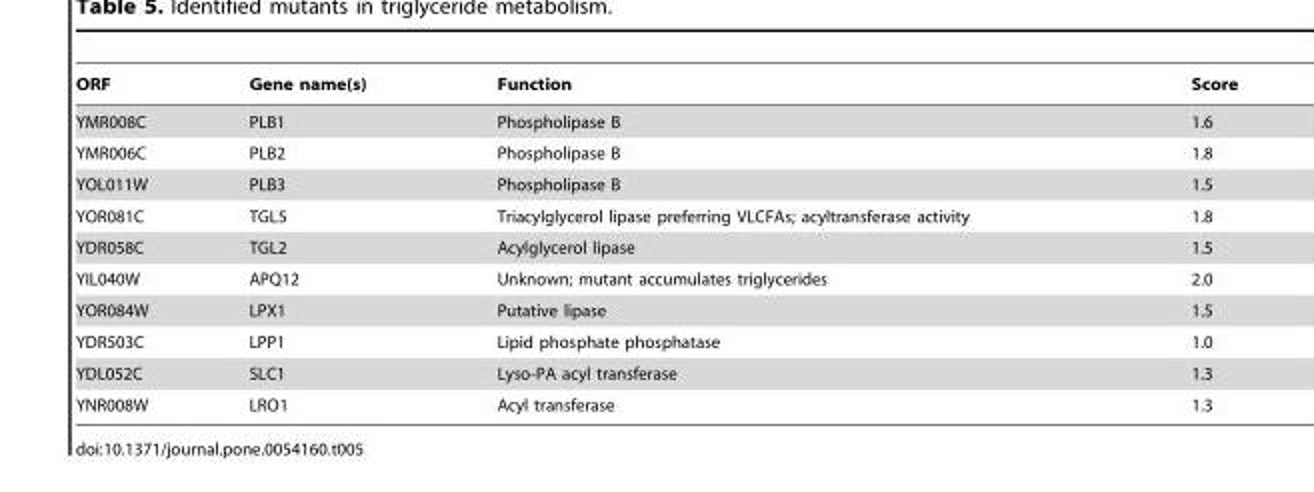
<table><thead><tr><td>ORF</td><td>Gene name(s)</td><td>Function</td><td>Score</td></tr></thead><tbody><tr><td>YMR008C</td><td>PLB1</td><td>Phospholipase B</td><td>1.6</td></tr><tr><td>YMR006C</td><td>PLB2</td><td>Phospholipase B</td><td>1.8</td></tr><tr><td>YOL011W</td><td>PLB3</td><td>Phospholipase B</td><td>1.5</td></tr><tr><td>YOR081C</td><td>TGL5</td><td>Triacylglycerol lipase preferring VLCFAs; acyltransferase activity</td><td>1.8</td></tr><tr><td>YDR058C</td><td>TGL2</td><td>Acylglycerol lipase</td><td>1.5</td></tr><tr><td>YIL040W</td><td>APQ12</td><td>Unknown; mutant accumulates triglycerides</td><td>2.0</td></tr><tr><td>YOR084W</td><td>LPX1</td><td>Putative lipase</td><td>1.5</td></tr><tr><td>YDR503C</td><td>LPP1</td><td>Lipid phosphate phosphatase</td><td>1.0</td></tr><tr><td>YDL052C</td><td>SLC1</td><td>Lyso-PA acyl transferase</td><td>1.3</td></tr><tr><td>YNR008W</td><td>LRO1</td><td>Acyl transferase</td><td>1.3</td></tr></tbody></table>